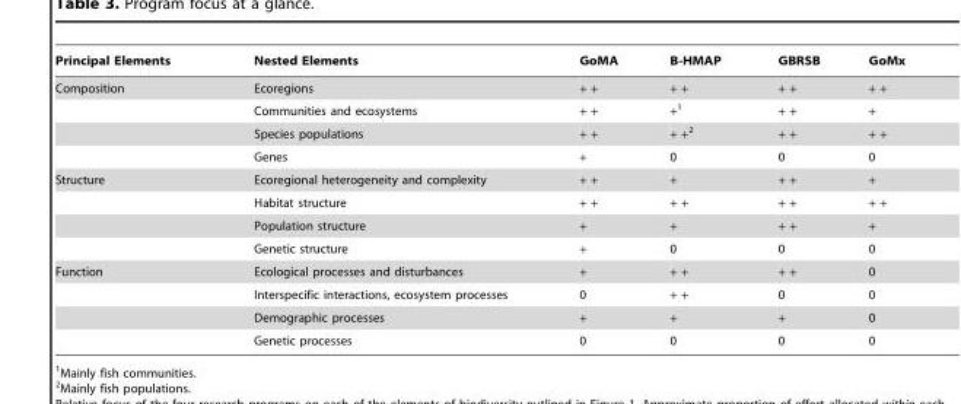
<table><thead><tr><td>Principal Elements</td><td>Nested Elements</td><td>GoMA</td><td>B-HMAP</td><td>GBRSB</td><td>GoMx</td></tr></thead><tbody><tr><td rowspan="4">Composition</td><td>Ecoregions</td><td>+ +</td><td>+ +</td><td>+ +</td><td>+ +</td></tr><tr><td>Communities and ecosystems</td><td>+ +</td><td>+<sup>1</sup></td><td>+ +</td><td>+</td></tr><tr><td>Species populations</td><td>+ +</td><td>+ +<sup>2</sup></td><td>+ +</td><td>+ +</td></tr><tr><td>Genes</td><td>+</td><td>0</td><td>0</td><td>0</td></tr><tr><td rowspan="4">Structure</td><td>Ecoregional heterogeneity and complexity</td><td>+ +</td><td>+</td><td>+ +</td><td>+</td></tr><tr><td>Habitat structure</td><td>+ +</td><td>+ +</td><td>+ +</td><td>+ +</td></tr><tr><td>Population structure</td><td>+</td><td>+</td><td>+ +</td><td>+</td></tr><tr><td>Genetic structure</td><td>+</td><td>0</td><td>0</td><td>0</td></tr><tr><td rowspan="4">Function</td><td>Ecological processes and disturbances</td><td>+</td><td>+ +</td><td>+ +</td><td>0</td></tr><tr><td>Interspecific interactions, ecosystem processes</td><td>0</td><td>+ +</td><td>0</td><td>0</td></tr><tr><td>Demographic processes</td><td>+</td><td>+</td><td>+</td><td>0</td></tr><tr><td>Genetic processes</td><td>0</td><td>0</td><td>0</td><td>0</td></tr></tbody></table>